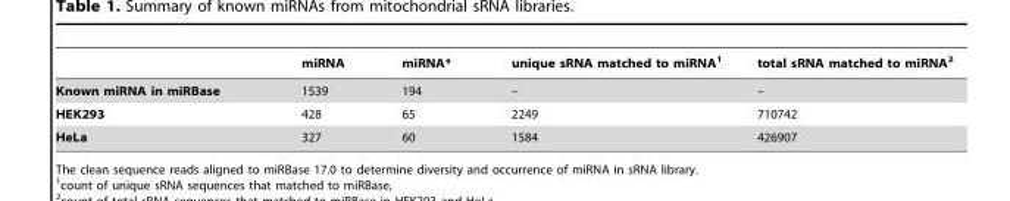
<table><thead><tr><td></td><td>miRNA</td><td>miRNA*</td><td>unique sRNA matched to miRNA<sup>1</sup></td><td>total sRNA matched to miRNA<sup>2</sup></td></tr></thead><tbody><tr><td>Known miRNA in miRBase</td><td>1539</td><td>194</td><td>–</td><td>–</td></tr><tr><td>HEK293</td><td>428</td><td>65</td><td>2249</td><td>710742</td></tr><tr><td>HeLa</td><td>327</td><td>60</td><td>1584</td><td>426907</td></tr></tbody></table>